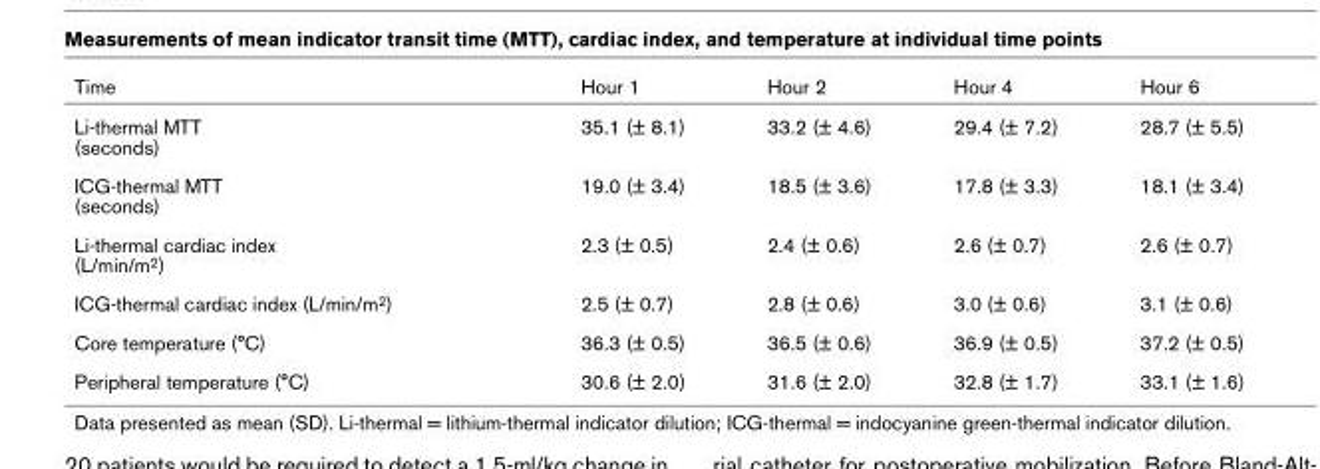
<table><thead><tr><td>Time</td><td>Hour 1</td><td>Hour 2</td><td>Hour 4</td><td>Hour 6</td></tr></thead><tbody><tr><td>Li-thermal MTT (seconds)</td><td>35.1 (± 8.1)</td><td>33.2 (± 4.6)</td><td>29.4 (± 7.2)</td><td>28.7 (± 5.5)</td></tr><tr><td>ICG-thermal MTT (seconds)</td><td>19.0 (± 3.4)</td><td>18.5 (± 3.6)</td><td>17.8 (± 3.3)</td><td>18.1 (± 3.4)</td></tr><tr><td>Li-thermal cardiac index (L/min/m<sup>2</sup>)</td><td>2.3 (± 0.5)</td><td>2.4 (± 0.6)</td><td>2.6 (± 0.7)</td><td>2.6 (± 0.7)</td></tr><tr><td>ICG-thermal cardiac index (L/min/m<sup>2</sup>)</td><td>2.5 (± 0.7)</td><td>2.8 (± 0.6)</td><td>3.0 (± 0.6)</td><td>3.1 (± 0.6)</td></tr><tr><td>Core temperature (°C)</td><td>36.3 (± 0.5)</td><td>36.5 (± 0.6)</td><td>36.9 (± 0.5)</td><td>37.2 (± 0.5)</td></tr><tr><td>Peripheral temperature (°C)</td><td>30.6 (± 2.0)</td><td>31.6 (± 2.0)</td><td>32.8 (± 1.7)</td><td>33.1 (± 1.6)</td></tr></tbody></table>